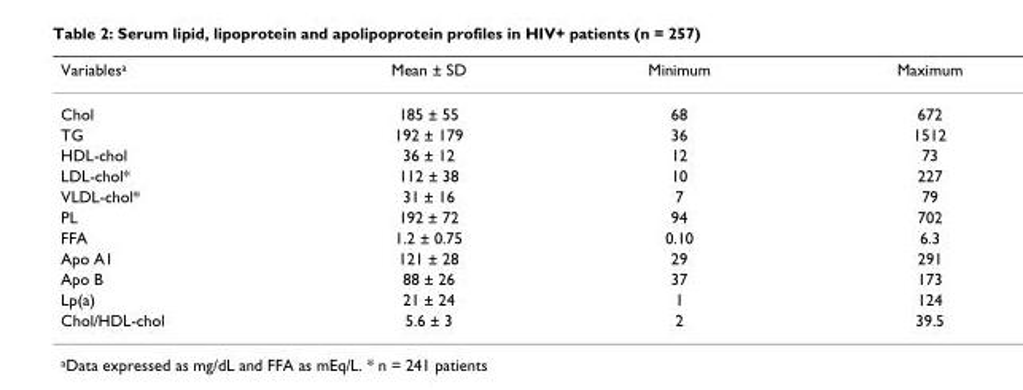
<table><thead><tr><td>Variables<sup>a</sup></td><td>Mean ± SD</td><td>Minimum</td><td>Maximum</td></tr></thead><tbody><tr><td>Chol</td><td>185 ± 55</td><td>68</td><td>672</td></tr><tr><td>TG</td><td>192 ± 179</td><td>36</td><td>1512</td></tr><tr><td>HDL-chol</td><td>36 ± 12</td><td>12</td><td>73</td></tr><tr><td>LDL-chol*</td><td>112 ± 38</td><td>10</td><td>227</td></tr><tr><td>VLDL-chol*</td><td>31 ± 16</td><td>7</td><td>79</td></tr><tr><td>PL</td><td>192 ± 72</td><td>94</td><td>702</td></tr><tr><td>FFA</td><td>1.2 ± 0.75</td><td>0.10</td><td>6.3</td></tr><tr><td>Apo A1</td><td>121 ± 28</td><td>29</td><td>291</td></tr><tr><td>Apo B</td><td>88 ± 26</td><td>37</td><td>173</td></tr><tr><td>Lp(a)</td><td>21 ± 24</td><td>1</td><td>124</td></tr><tr><td>Chol/HDL-chol</td><td>5.6 ± 3</td><td>2</td><td>39.5</td></tr></tbody></table>